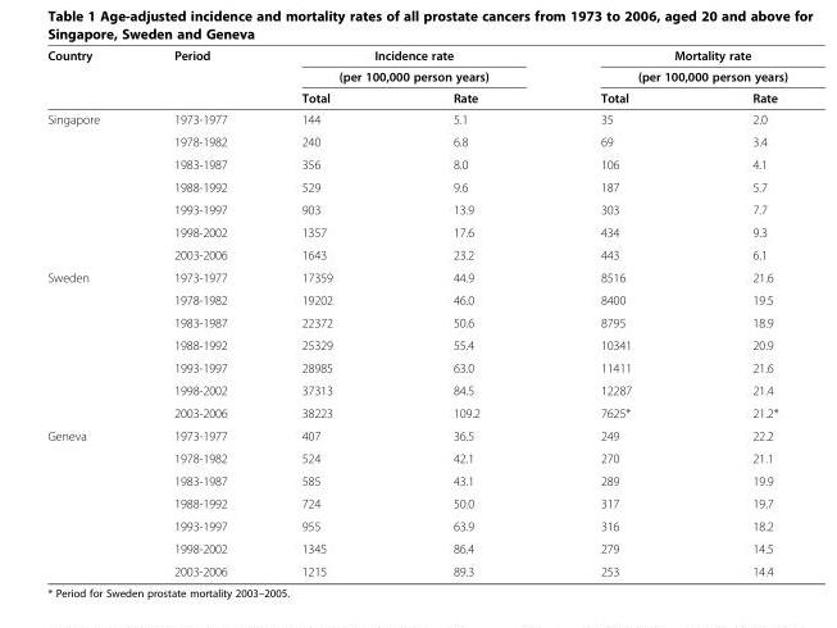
<table><thead><tr><td rowspan="3">Country</td><td rowspan="3">Period</td><td rowspan="2" colspan="2">Incidence rate (per 100,000 person years)</td><td rowspan="2" colspan="2">Mortality rate (per 100,000 person years)</td></tr><tr></tr><tr><td>Total</td><td>Rate</td><td>Total</td><td>Rate</td></tr></thead><tbody><tr><td rowspan="7">Singapore</td><td>1973-1977</td><td>144</td><td>5.1</td><td>35</td><td>2.0</td></tr><tr><td>1978-1982</td><td>240</td><td>6.8</td><td>69</td><td>3.4</td></tr><tr><td>1983-1987</td><td>356</td><td>8.0</td><td>106</td><td>4.1</td></tr><tr><td>1988-1992</td><td>529</td><td>9.6</td><td>187</td><td>5.7</td></tr><tr><td>1993-1997</td><td>903</td><td>13.9</td><td>303</td><td>7.7</td></tr><tr><td>1998-2002</td><td>1357</td><td>17.6</td><td>434</td><td>9.3</td></tr><tr><td>2003-2006</td><td>1643</td><td>23.2</td><td>443</td><td>6.1</td></tr><tr><td rowspan="7">Sweden</td><td>1973-1977</td><td>17359</td><td>44.9</td><td>8516</td><td>21.6</td></tr><tr><td>1978-1982</td><td>19202</td><td>46.0</td><td>8400</td><td>19.5</td></tr><tr><td>1983-1987</td><td>22372</td><td>50.6</td><td>8795</td><td>18.9</td></tr><tr><td>1988-1992</td><td>25329</td><td>55.4</td><td>10341</td><td>20.9</td></tr><tr><td>1993-1997</td><td>28985</td><td>63.0</td><td>11411</td><td>21.6</td></tr><tr><td>1998-2002</td><td>37313</td><td>84.5</td><td>12287</td><td>21.4</td></tr><tr><td>2003-2006</td><td>38223</td><td>109.2</td><td>7625*</td><td>21.2*</td></tr><tr><td rowspan="7">Geneva</td><td>1973-1977</td><td>407</td><td>36.5</td><td>249</td><td>22.2</td></tr><tr><td>1978-1982</td><td>524</td><td>42.1</td><td>270</td><td>21.1</td></tr><tr><td>1983-1987</td><td>585</td><td>43.1</td><td>289</td><td>19.9</td></tr><tr><td>1988-1992</td><td>724</td><td>50.0</td><td>317</td><td>19.7</td></tr><tr><td>1993-1997</td><td>955</td><td>63.9</td><td>316</td><td>18.2</td></tr><tr><td>1998-2002</td><td>1345</td><td>86.4</td><td>279</td><td>14.5</td></tr><tr><td>2003-2006</td><td>1215</td><td>89.3</td><td>253</td><td>14.4</td></tr></tbody></table>